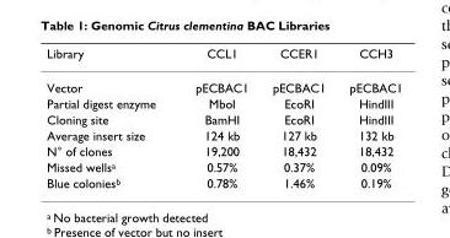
<table><thead><tr><td>Library</td><td>CCL1</td><td>CCER1</td><td>CCH3</td></tr></thead><tbody><tr><td>Vector</td><td>pECBAC1</td><td>pECBAC1</td><td>pECBAC1</td></tr><tr><td>Partial digest enzyme</td><td>MboI</td><td>EcoRI</td><td>HindIII</td></tr><tr><td>Cloning site</td><td>BamHI</td><td>EcoRI</td><td>HindIII</td></tr><tr><td>Average insert size</td><td>124 kb</td><td>127 kb</td><td>132 kb</td></tr><tr><td>N° of clones</td><td>19,200</td><td>18,432</td><td>18,432</td></tr><tr><td>Missed wells<sup>a</sup></td><td>0.57%</td><td>0.37%</td><td>0.09%</td></tr><tr><td>Blue colonies<sup>b</sup></td><td>0.78%</td><td>1.46%</td><td>0.19%</td></tr></tbody></table>